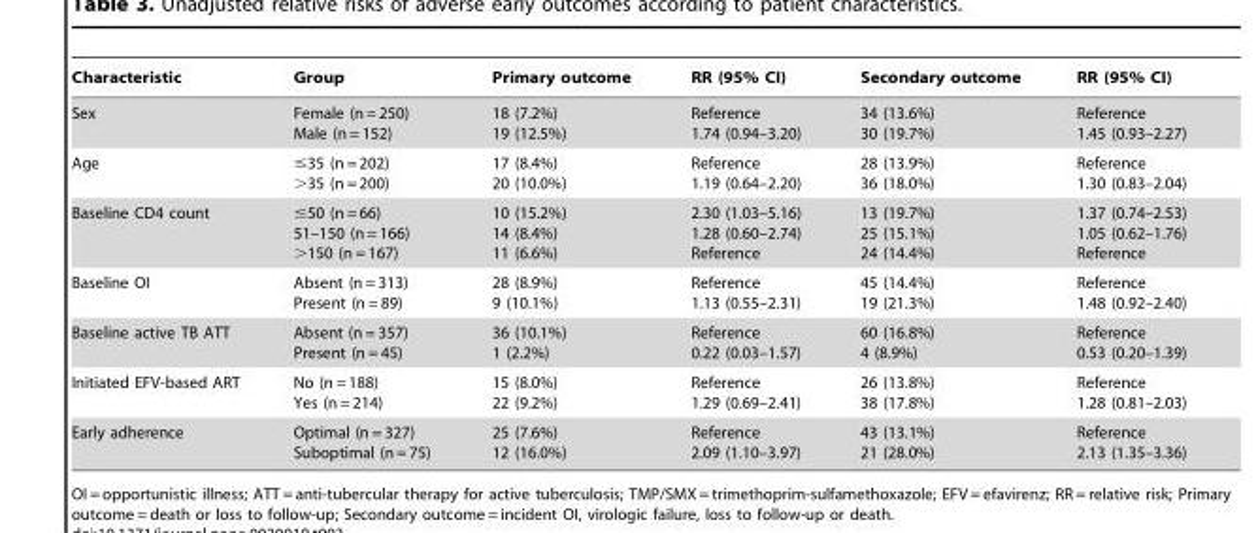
<table><thead><tr><td>Characteristic</td><td>Group</td><td>Primary outcome</td><td>RR (95% CI)</td><td>Secondary outcome</td><td>RR (95% CI)</td></tr></thead><tbody><tr><td>Sex</td><td>Female (n = 250) Male (n = 152)</td><td>18 (7.2%) 19 (12.5%)</td><td>Reference 1.74 (0.94–3.20)</td><td>34 (13.6%) 30 (19.7%)</td><td>Reference 1.45 (0.93–2.27)</td></tr><tr><td>Age</td><td>≤35 (n = 202) &gt;35 (n = 200)</td><td>17 (8.4%) 20 (10.0%)</td><td>Reference 1.19 (0.64–2.20)</td><td>28 (13.9%) 36 (18.0%)</td><td>Reference 1.30 (0.83–2.04)</td></tr><tr><td>Baseline CD4 count</td><td>≤50 (n = 66) 51–150 (n = 166) &gt;150 (n = 167)</td><td>10 (15.2%) 14 (8.4%) 11 (6.6%)</td><td>2.30 (1.03–5.16) 1.28 (0.60–2.74) Reference</td><td>13 (19.7%) 25 (15.1%) 24 (14.4%)</td><td>1.37 (0.74–2.53) 1.05 (0.62–1.76) Reference</td></tr><tr><td>Baseline OI</td><td>Absent (n = 313) Present (n = 89)</td><td>28 (8.9%) 9 (10.1%)</td><td>Reference 1.13 (0.55–2.31)</td><td>45 (14.4%) 19 (21.3%)</td><td>Reference 1.48 (0.92–2.40)</td></tr><tr><td>Baseline active TB ATT</td><td>Absent (n = 357) Present (n = 45)</td><td>36 (10.1%) 1 (2.2%)</td><td>Reference 0.22 (0.03–1.57)</td><td>60 (16.8%) 4 (8.9%)</td><td>Reference 0.53 (0.20–1.39)</td></tr><tr><td>Initiated EFV-based ART</td><td>No (n = 188) Yes (n = 214)</td><td>15 (8.0%) 22 (9.2%)</td><td>Reference 1.29 (0.69–2.41)</td><td>26 (13.8%) 38 (17.8%)</td><td>Reference 1.28 (0.81–2.03)</td></tr><tr><td>Early adherence</td><td>Optimal (n = 327) Suboptimal (n = 75)</td><td>25 (7.6%) 12 (16.0%)</td><td>Reference 2.09 (1.10–3.97)</td><td>43 (13.1%) 21 (28.0%)</td><td>Reference 2.13 (1.35–3.36)</td></tr></tbody></table>